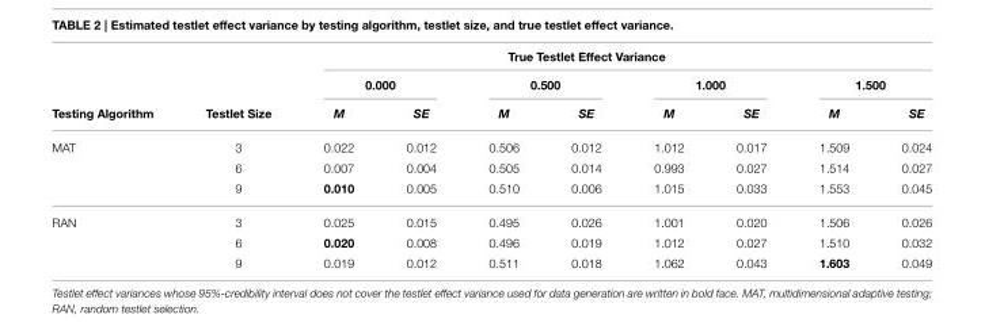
<table><thead><tr><td rowspan="3">Testing Algorithm</td><td rowspan="3">Testlet Size</td><td colspan="8">True Testlet Effect Variance</td></tr><tr><td colspan="2">0.000</td><td colspan="2">0.500</td><td colspan="2">1.000</td><td colspan="2">1.500</td></tr><tr><td>M</td><td>SE</td><td>M</td><td>SE</td><td>M</td><td>SE</td><td>M</td><td>SE</td></tr></thead><tbody><tr><td rowspan="3">MAT</td><td>3</td><td>0.022</td><td>0.012</td><td>0.506</td><td>0.012</td><td>1.012</td><td>0.017</td><td>1.509</td><td>0.024</td></tr><tr><td>6</td><td>0.007</td><td>0.004</td><td>0.505</td><td>0.014</td><td>0.993</td><td>0.027</td><td>1.514</td><td>0.027</td></tr><tr><td>9</td><td>0.010</td><td>0.005</td><td>0.510</td><td>0.006</td><td>1.015</td><td>0.033</td><td>1.553</td><td>0.045</td></tr><tr><td rowspan="3">RAN</td><td>3</td><td>0.025</td><td>0.015</td><td>0.495</td><td>0.026</td><td>1.001</td><td>0.020</td><td>1.506</td><td>0.026</td></tr><tr><td>6</td><td>0.020</td><td>0.008</td><td>0.496</td><td>0.019</td><td>1.012</td><td>0.027</td><td>1.510</td><td>0.032</td></tr><tr><td>9</td><td>0.019</td><td>0.012</td><td>0.511</td><td>0.018</td><td>1.062</td><td>0.043</td><td>1.603</td><td>0.049</td></tr></tbody></table>